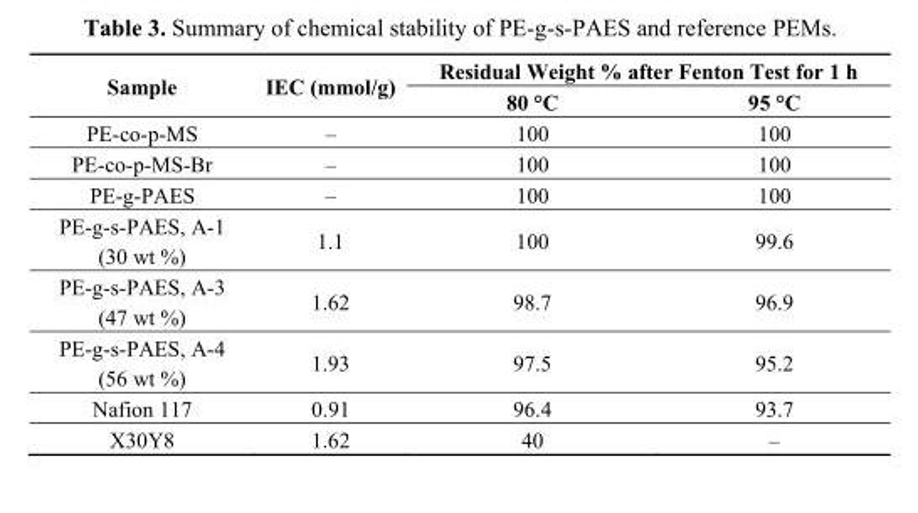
<table><thead><tr><td rowspan="2">Sample</td><td rowspan="2">IEC (mmol/g)</td><td colspan="2">Residual Weight % after Fenton Test for 1 h</td></tr><tr><td>80 °C</td><td>95 °C</td></tr></thead><tbody><tr><td>PE-co-p-MS</td><td>–</td><td>100</td><td>100</td></tr><tr><td>PE-co-p-MS-Br</td><td>–</td><td>100</td><td>100</td></tr><tr><td>PE-g-PAES</td><td>–</td><td>100</td><td>100</td></tr><tr><td>PE-g-s-PAES, A-1 (30 wt %)</td><td>1.1</td><td>100</td><td>99.6</td></tr><tr><td>PE-g-s-PAES, A-3 (47 wt %)</td><td>1.62</td><td>98.7</td><td>96.9</td></tr><tr><td>PE-g-s-PAES, A-4 (56 wt %)</td><td>1.93</td><td>97.5</td><td>95.2</td></tr><tr><td>Nafion 117</td><td>0.91</td><td>96.4</td><td>93.7</td></tr><tr><td>X30Y8</td><td>1.62</td><td>40</td><td>–</td></tr></tbody></table>